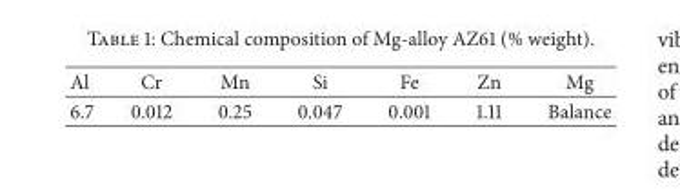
<table><thead><tr><td>Al</td><td>Cr</td><td>Mn</td><td>Si</td><td>Fe</td><td>Zn</td><td>Mg</td></tr></thead><tbody><tr><td>6.7</td><td>0.012</td><td>0.25</td><td>0.047</td><td>0.001</td><td>1.11</td><td>Balance</td></tr></tbody></table>